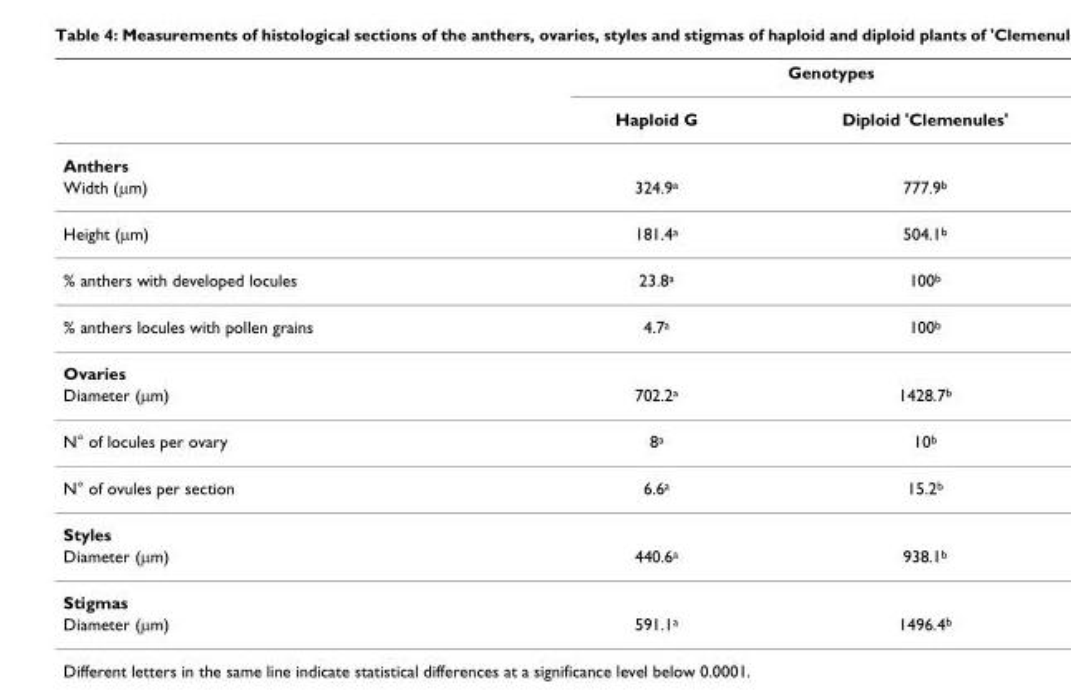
<table><thead><tr><td rowspan="2"></td><td colspan="2">Genotypes</td></tr><tr><td>Haploid G</td><td>Diploid &#x27;Clemenules&#x27;</td></tr></thead><tbody><tr><td colspan="3">Anthers</td></tr><tr><td>Width (μm)</td><td>324.9<sup>a</sup></td><td>777.9<sup>b</sup></td></tr><tr><td>Height (μm)</td><td>181.4<sup>a</sup></td><td>504.1<sup>b</sup></td></tr><tr><td>% anthers with developed locules</td><td>23.8<sup>a</sup></td><td>100<sup>b</sup></td></tr><tr><td>% anthers locules with pollen grains</td><td>4.7<sup>a</sup></td><td>100<sup>b</sup></td></tr><tr><td colspan="3">Ovaries</td></tr><tr><td>Diameter (μm)</td><td>702.2<sup>a</sup></td><td>1428.7<sup>b</sup></td></tr><tr><td>N° of locules per ovary</td><td>8<sup>a</sup></td><td>10<sup>b</sup></td></tr><tr><td>N° of ovules per section</td><td>6.6<sup>a</sup></td><td>15.2<sup>b</sup></td></tr><tr><td colspan="3">Styles</td></tr><tr><td>Diameter (μm)</td><td>440.6<sup>a</sup></td><td>938.1<sup>b</sup></td></tr><tr><td colspan="3">Stigmas</td></tr><tr><td>Diameter (μm)</td><td>591.1<sup>a</sup></td><td>1496.4<sup>b</sup></td></tr></tbody></table>